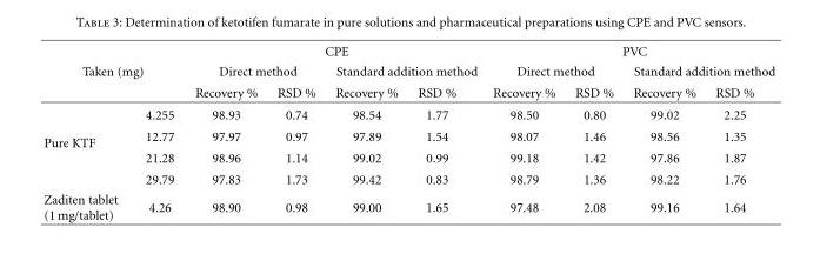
<table><thead><tr><td></td><td></td><td colspan="4">CPE</td><td colspan="4">PVC</td></tr><tr><td colspan="2">Taken (mg)</td><td colspan="2">Direct method</td><td colspan="2">Standard addition method</td><td colspan="2">Direct method</td><td colspan="2">Standard addition method</td></tr><tr><td></td><td></td><td>Recovery %</td><td>RSD %</td><td>Recovery %</td><td>RSD %</td><td>Recovery %</td><td>RSD %</td><td>Recovery %</td><td>RSD %</td></tr></thead><tbody><tr><td rowspan="4">Pure KTF</td><td>4.255</td><td>98.93</td><td>0.74</td><td>98.54</td><td>1.77</td><td>98.50</td><td>0.80</td><td>99.02</td><td>2.25</td></tr><tr><td>12.77</td><td>97.97</td><td>0.97</td><td>97.89</td><td>1.54</td><td>98.07</td><td>1.46</td><td>98.56</td><td>1.35</td></tr><tr><td>21.28</td><td>98.96</td><td>1.14</td><td>99.02</td><td>0.99</td><td>99.18</td><td>1.42</td><td>97.86</td><td>1.87</td></tr><tr><td>29.79</td><td>97.83</td><td>1.73</td><td>99.42</td><td>0.83</td><td>98.79</td><td>1.36</td><td>98.22</td><td>1.76</td></tr><tr><td>Zaditen tablet (1 mg/tablet)</td><td>4.26</td><td>98.90</td><td>0.98</td><td>99.00</td><td>1.65</td><td>97.48</td><td>2.08</td><td>99.16</td><td>1.64</td></tr></tbody></table>